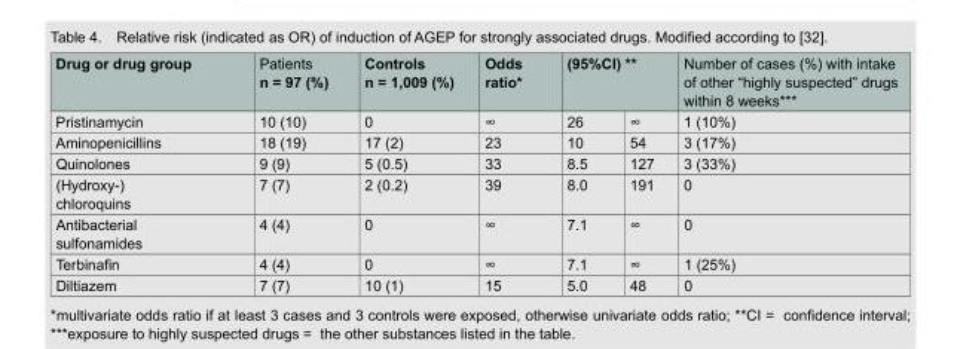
<table><thead><tr><td rowspan="2">Drug or drug group Pristinamycin</td><td rowspan="2">Patients n = 97 (%) 10 (10)</td><td rowspan="2">Controls n = 1,009 (%) 0</td><td rowspan="2">Odds ratio* ∞</td><td colspan="2">(95%CI) **</td><td rowspan="2">Number of cases (%) with intake of other “highly suspected” drugs within 8 weeks*** 1 (10%)</td></tr><tr><td>26</td><td>∞</td></tr></thead><tbody><tr><td>Aminopenicillins</td><td>18 (19)</td><td>17 (2)</td><td>23</td><td>10</td><td>54</td><td>3 (17%)</td></tr><tr><td>Quinolones</td><td>9 (9)</td><td>5 (0.5)</td><td>33</td><td>8.5</td><td>127</td><td>3 (33%)</td></tr><tr><td>(Hydroxy-) chloroquins</td><td>7 (7)</td><td>2 (0.2)</td><td>39</td><td>8.0</td><td>191</td><td>0</td></tr><tr><td>Antibacterial sulfonamides</td><td>4 (4)</td><td>0</td><td>∞</td><td>7.1</td><td>∞</td><td>0</td></tr><tr><td>Terbinafin</td><td>4 (4)</td><td>0</td><td>∞</td><td>7.1</td><td>∞</td><td>1 (25%)</td></tr><tr><td>Diltiazem</td><td>7 (7)</td><td>10 (1)</td><td>15</td><td>5.0</td><td>48</td><td>0</td></tr></tbody></table>